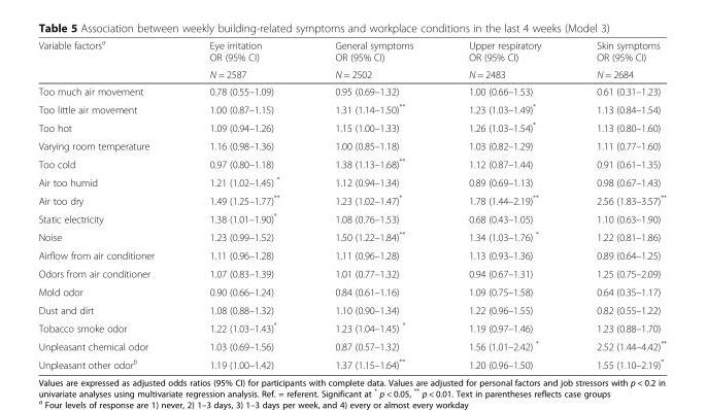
<table><thead><tr><td rowspan="2">Variable factors<sup>a</sup></td><td rowspan="2">Eye irritation OR (95% CI) N = 2587</td><td rowspan="2">General symptoms OR (95% CI) N = 2502</td><td rowspan="2">Upper respiratory OR (95% CI) N = 2483</td><td rowspan="2">Skin symptoms OR (95% CI) N = 2684</td></tr><tr></tr></thead><tbody><tr><td>Too much air movement</td><td>0.78 (0.55–1.09)</td><td>0.95 (0.69–1.32)</td><td>1.00 (0.66–1.53)</td><td>0.61 (0.31–1.23)</td></tr><tr><td>Too little air movement</td><td>1.00 (0.87–1.15)</td><td>1.31 (1.14–1.50)**</td><td>1.23 (1.03–1.49)*</td><td>1.13 (0.84–1.54)</td></tr><tr><td>Too hot</td><td>1.09 (0.94–1.26)</td><td>1.15 (1.00–1.33)</td><td>1.26 (1.03–1.54)*</td><td>1.13 (0.80–1.60)</td></tr><tr><td>Varying room temperature</td><td>1.16 (0.98–1.36)</td><td>1.00 (0.85–1.18)</td><td>1.03 (0.82–1.29)</td><td>1.11 (0.77–1.60)</td></tr><tr><td>Too cold</td><td>0.97 (0.80–1.18)</td><td>1.38 (1.13–1.68)**</td><td>1.12 (0.87–1.44)</td><td>0.91 (0.61–1.35)</td></tr><tr><td>Air too humid</td><td>1.21 (1.02–1.45) *</td><td>1.12 (0.94–1.34)</td><td>0.89 (0.69–1.13)</td><td>0.98 (0.67–1.43)</td></tr><tr><td>Air too dry</td><td>1.49 (1.25–1.77)**</td><td>1.23 (1.02–1.47)*</td><td>1.78 (1.44–2.19)**</td><td>2.56 (1.83–3.57)**</td></tr><tr><td>Static electricity</td><td>1.38 (1.01–1.90)*</td><td>1.08 (0.76–1.53)</td><td>0.68 (0.43–1.05)</td><td>1.10 (0.63–1.90)</td></tr><tr><td>Noise</td><td>1.23 (0.99–1.52)</td><td>1.50 (1.22–1.84)**</td><td>1.34 (1.03–1.76) *</td><td>1.22 (0.81–1.86)</td></tr><tr><td>Airflow from air conditioner</td><td>1.11 (0.96–1.28)</td><td>1.11 (0.96–1.28)</td><td>1.13 (0.93–1.36)</td><td>0.89 (0.64–1.25)</td></tr><tr><td>Odors from air conditioner</td><td>1.07 (0.83–1.39)</td><td>1.01 (0.77–1.32)</td><td>0.94 (0.67–1.31)</td><td>1.25 (0.75–2.09)</td></tr><tr><td>Mold odor</td><td>0.90 (0.66–1.24)</td><td>0.84 (0.61–1.16)</td><td>1.09 (0.75–1.58)</td><td>0.64 (0.35–1.17)</td></tr><tr><td>Dust and dirt</td><td>1.08 (0.88–1.32)</td><td>1.10 (0.90–1.34)</td><td>1.22 (0.96–1.55)</td><td>0.82 (0.55–1.22)</td></tr><tr><td>Tobacco smoke odor</td><td>1.22 (1.03–1.43)*</td><td>1.23 (1.04–1.45) *</td><td>1.19 (0.97–1.46)</td><td>1.23 (0.88–1.70)</td></tr><tr><td>Unpleasant chemical odor</td><td>1.03 (0.69–1.56)</td><td>0.87 (0.57–1.32)</td><td>1.56 (1.01–2.42) *</td><td>2.52 (1.44–4.42)**</td></tr><tr><td>Unpleasant other odor<sup>b</sup></td><td>1.19 (1.00–1.42)</td><td>1.37 (1.15–1.64)**</td><td>1.20 (0.96–1.50)</td><td>1.55 (1.10–2.19)*</td></tr></tbody></table>